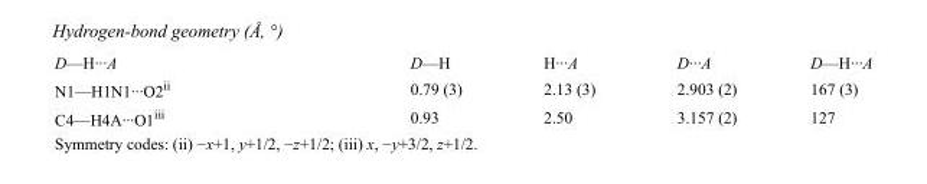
<table><tbody><tr><td>D—H···A</td><td>D—H</td><td>H···A</td><td>D···A</td><td>D—H···A</td></tr><tr><td>N1—H1N1···O2<sup>ii</sup></td><td>0.79 (3)</td><td>2.13 (3)</td><td>2.903 (2)</td><td>167 (3)</td></tr><tr><td>C4—H4A···O1<sup>iii</sup></td><td>0.93</td><td>2.50</td><td>3.157 (2)</td><td>127</td></tr></tbody></table>